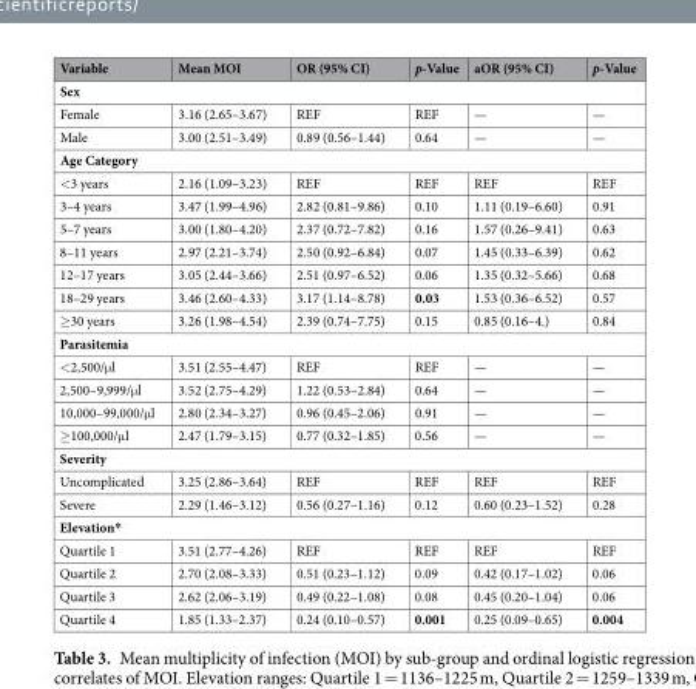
<table><thead><tr><td>Variable</td><td>Mean MOI</td><td>OR (95% CI)</td><td>p-Value</td><td>aOR (95% CI)</td><td>p-Value</td></tr></thead><tbody><tr><td colspan="6">Sex</td></tr><tr><td>Female</td><td>3.16 (2.65–3.67)</td><td>REF</td><td>REF</td><td>—</td><td>—</td></tr><tr><td>Male</td><td>3.00 (2.51–3.49)</td><td>0.89 (0.56–1.44)</td><td>0.64</td><td>—</td><td>—</td></tr><tr><td colspan="6">Age Category</td></tr><tr><td>&lt;3 years</td><td>2.16 (1.09–3.23)</td><td>REF</td><td>REF</td><td>REF</td><td>REF</td></tr><tr><td>3–4 years</td><td>3.47 (1.99–4.96)</td><td>2.82 (0.81–9.86)</td><td>0.10</td><td>1.11 (0.19–6.60)</td><td>0.91</td></tr><tr><td>5–7 years</td><td>3.00 (1.80–4.20)</td><td>2.37 (0.72–7.82)</td><td>0.16</td><td>1.57 (0.26–9.41)</td><td>0.63</td></tr><tr><td>8–11 years</td><td>2.97 (2.21–3.74)</td><td>2.50 (0.92–6.84)</td><td>0.07</td><td>1.45 (0.33–6.39)</td><td>0.62</td></tr><tr><td>12–17 years</td><td>3.05 (2.44–3.66)</td><td>2.51 (0.97–6.52)</td><td>0.06</td><td>1.35 (0.32–5.66)</td><td>0.68</td></tr><tr><td>18–29 years</td><td>3.46 (2.60–4.33)</td><td>3.17 (1.14–8.78)</td><td>0.03</td><td>1.53 (0.36–6.52)</td><td>0.57</td></tr><tr><td>≥30 years</td><td>3.26 (1.98–4.54)</td><td>2.39 (0.74–7.75)</td><td>0.15</td><td>0.85 (0.16–4.)</td><td>0.84</td></tr><tr><td colspan="6">Parasitemia</td></tr><tr><td>&lt;2,500/μl</td><td>3.51 (2.55–4.47)</td><td>REF</td><td>REF</td><td>—</td><td>—</td></tr><tr><td>2,500–9,999/μl</td><td>3.52 (2.75–4.29)</td><td>1.22 (0.53–2.84)</td><td>0.64</td><td>—</td><td>—</td></tr><tr><td>10,000–99,000/μl</td><td>2.80 (2.34–3.27)</td><td>0.96 (0.45–2.06)</td><td>0.91</td><td>—</td><td>—</td></tr><tr><td>≥100,000/μl</td><td>2.47 (1.79–3.15)</td><td>0.77 (0.32–1.85)</td><td>0.56</td><td>—</td><td>—</td></tr><tr><td colspan="6">Severity</td></tr><tr><td>Uncomplicated</td><td>3.25 (2.86–3.64)</td><td>REF</td><td>REF</td><td>REF</td><td>REF</td></tr><tr><td>Severe</td><td>2.29 (1.46–3.12)</td><td>0.56 (0.27–1.16)</td><td>0.12</td><td>0.60 (0.23–1.52)</td><td>0.28</td></tr><tr><td colspan="6">Elevation*</td></tr><tr><td>Quartile 1</td><td>3.51 (2.77–4.26)</td><td>REF</td><td>REF</td><td>REF</td><td>REF</td></tr><tr><td>Quartile 2</td><td>2.70 (2.08–3.33)</td><td>0.51 (0.23–1.12)</td><td>0.09</td><td>0.42 (0.17–1.02)</td><td>0.06</td></tr><tr><td>Quartile 3</td><td>2.62 (2.06–3.19)</td><td>0.49 (0.22–1.08)</td><td>0.08</td><td>0.45 (0.20–1.04)</td><td>0.06</td></tr><tr><td>Quartile 4</td><td>1.85 (1.33–2.37)</td><td>0.24 (0.10–0.57)</td><td>0.001</td><td>0.25 (0.09–0.65)</td><td>0.004</td></tr></tbody></table>